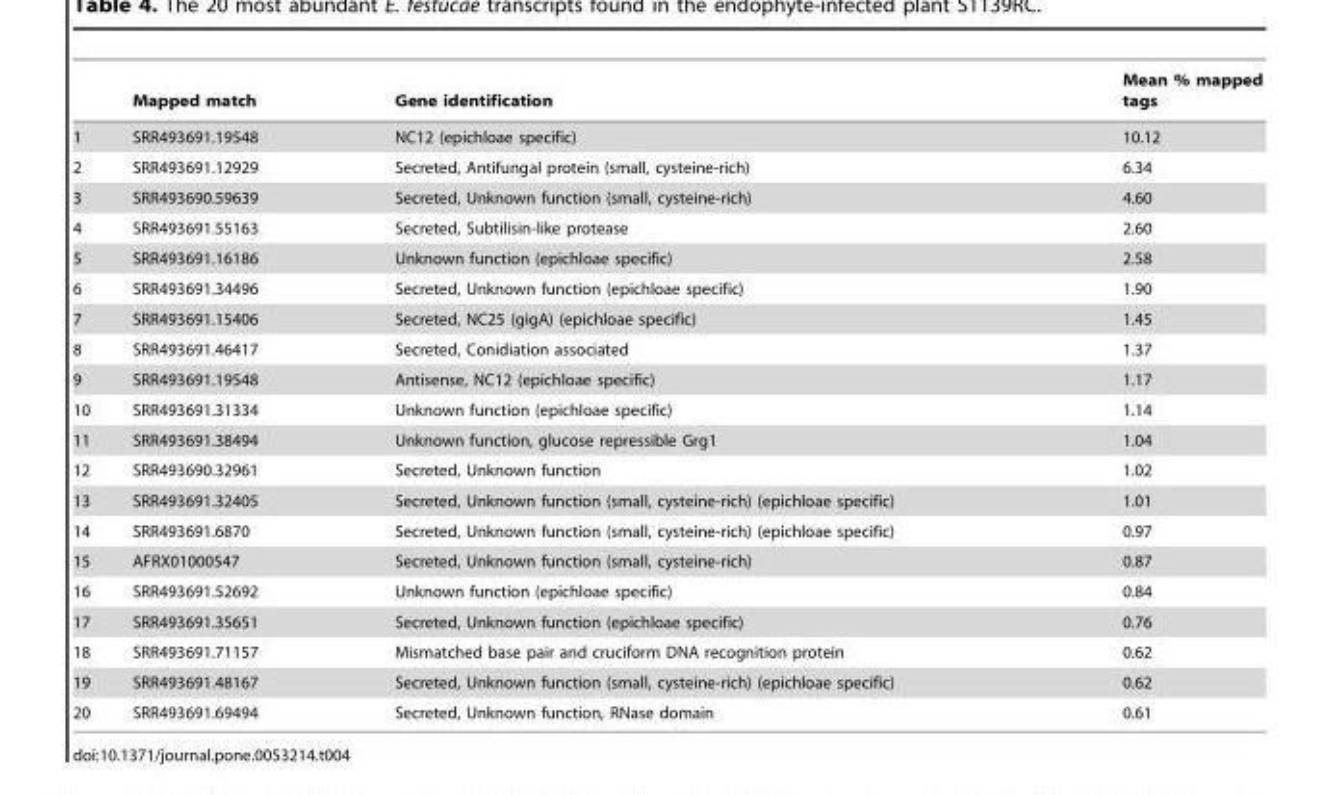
<table><thead><tr><td></td><td>Mapped match</td><td>Gene identification</td><td>Mean % mapped tags</td></tr></thead><tbody><tr><td>1</td><td>SRR493691.19548</td><td>NC12 (epichloae specific)</td><td>10.12</td></tr><tr><td>2</td><td>SRR493691.12929</td><td>Secreted, Antifungal protein (small, cysteine-rich)</td><td>6.34</td></tr><tr><td>3</td><td>SRR493690.59639</td><td>Secreted, Unknown function (small, cysteine-rich)</td><td>4.60</td></tr><tr><td>4</td><td>SRR493691.55163</td><td>Secreted, Subtilisin-like protease</td><td>2.60</td></tr><tr><td>5</td><td>SRR493691.16186</td><td>Unknown function (epichloae specific)</td><td>2.58</td></tr><tr><td>6</td><td>SRR493691.34496</td><td>Secreted, Unknown function (epichloae specific)</td><td>1.90</td></tr><tr><td>7</td><td>SRR493691.15406</td><td>Secreted, NC25 (gigA) (epichloae specific)</td><td>1.45</td></tr><tr><td>8</td><td>SRR493691.46417</td><td>Secreted, Conidiation associated</td><td>1.37</td></tr><tr><td>9</td><td>SRR493691.19548</td><td>Antisense, NC12 (epichloae specific)</td><td>1.17</td></tr><tr><td>10</td><td>SRR493691.31334</td><td>Unknown function (epichloae specific)</td><td>1.14</td></tr><tr><td>11</td><td>SRR493691.38494</td><td>Unknown function, glucose repressible Grg1</td><td>1.04</td></tr><tr><td>12</td><td>SRR493690.32961</td><td>Secreted, Unknown function</td><td>1.02</td></tr><tr><td>13</td><td>SRR493691.32405</td><td>Secreted, Unknown function (small, cysteine-rich) (epichloae specific)</td><td>1.01</td></tr><tr><td>14</td><td>SRR493691.6870</td><td>Secreted, Unknown function (small, cysteine-rich) (epichloae specific)</td><td>0.97</td></tr><tr><td>15</td><td>AFRX01000547</td><td>Secreted, Unknown function (small, cysteine-rich)</td><td>0.87</td></tr><tr><td>16</td><td>SRR493691.52692</td><td>Unknown function (epichloae specific)</td><td>0.84</td></tr><tr><td>17</td><td>SRR493691.35651</td><td>Secreted, Unknown function (epichloae specific)</td><td>0.76</td></tr><tr><td>18</td><td>SRR493691.71157</td><td>Mismatched base pair and cruciform DNA recognition protein</td><td>0.62</td></tr><tr><td>19</td><td>SRR493691.48167</td><td>Secreted, Unknown function (small, cysteine-rich) (epichloae specific)</td><td>0.62</td></tr><tr><td>20</td><td>SRR493691.69494</td><td>Secreted, Unknown function, RNase domain</td><td>0.61</td></tr></tbody></table>